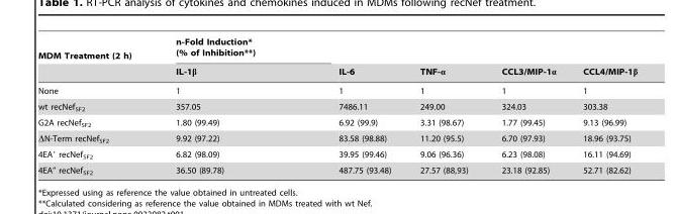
<table><thead><tr><td rowspan="2">MDM Treatment (2 h)</td><td rowspan="2">n-Fold Induction* (% of Inhibition**) IL-1β</td><td rowspan="2">IL-6</td><td rowspan="2">TNF-α</td><td rowspan="2">CCL3/MIP-1α</td><td rowspan="2">CCL4/MIP-1β</td></tr><tr></tr></thead><tbody><tr><td>None</td><td>1</td><td>1</td><td>1</td><td>1</td><td>1</td></tr><tr><td>wt recNef<sub>SF2</sub></td><td>357.05</td><td>7486.11</td><td>249.00</td><td>324.03</td><td>303.38</td></tr><tr><td>G2A recNef<sub>SF2</sub></td><td>1.80 (99.49)</td><td>6.92 (99.9)</td><td>3.31 (98.67)</td><td>1.77 (99.45)</td><td>9.13 (96.99)</td></tr><tr><td>ΔN-Term recNef<sub>SF2</sub></td><td>9.92 (97.22)</td><td>83.58 (98.88)</td><td>11.20 (95.5)</td><td>6.70 (97.93)</td><td>18.96 (93.75)</td></tr><tr><td>4EA′ recNef<sub>SF2</sub></td><td>6.82 (98.09)</td><td>39.95 (99.46)</td><td>9.06 (96.36)</td><td>6.23 (98.08)</td><td>16.11 (94.69)</td></tr><tr><td>4EA″ recNef<sub>SF2</sub></td><td>36.50 (89.78)</td><td>487.75 (93.48)</td><td>27.57 (88,93)</td><td>23.18 (92.85)</td><td>52.71 (82.62)</td></tr></tbody></table>